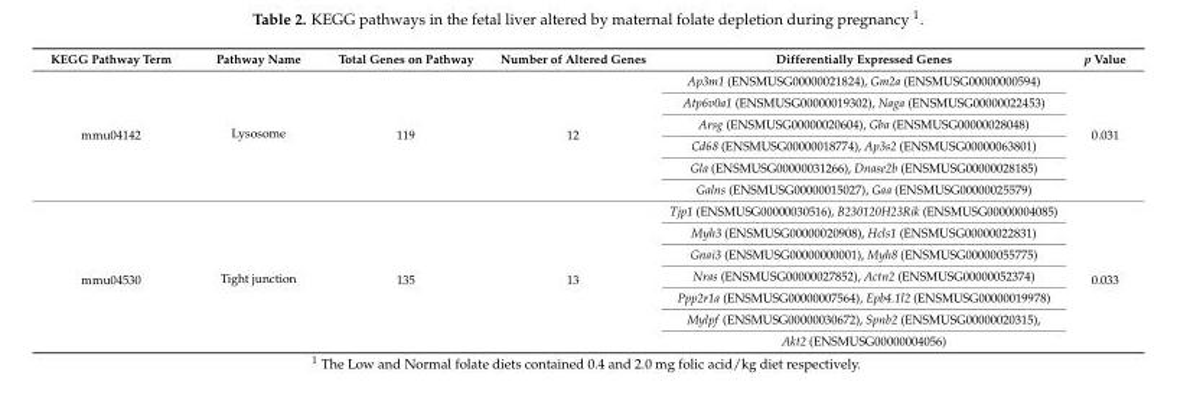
<table><thead><tr><td>KEGG Pathway Term</td><td>Pathway Name</td><td>Total Genes on Pathway</td><td>Number of Altered Genes</td><td>Differentially Expressed Genes</td><td>p Value</td></tr></thead><tbody><tr><td rowspan="6">mmu04142</td><td rowspan="6">Lysosome</td><td rowspan="6">119</td><td rowspan="6">12</td><td>Ap3m1 (ENSMUSG00000021824), Gm2a (ENSMUSG00000000594)</td><td rowspan="6">0.031</td></tr><tr><td>Atp6v0a1 (ENSMUSG00000019302), Naga (ENSMUSG00000022453)</td></tr><tr><td>Arsg (ENSMUSG00000020604), Gba (ENSMUSG00000028048)</td></tr><tr><td>Cd68 (ENSMUSG00000018774), Ap3s2 (ENSMUSG00000063801)</td></tr><tr><td>Gla (ENSMUSG00000031266), Dnase2b (ENSMUSG00000028185)</td></tr><tr><td>Galns (ENSMUSG00000015027), Gaa (ENSMUSG00000025579)</td></tr><tr><td rowspan="7">mmu04530</td><td rowspan="7">Tight junction</td><td rowspan="7">135</td><td rowspan="7">13</td><td>Tjp1 (ENSMUSG00000030516), B230120H23Rik (ENSMUSG00000004085)</td><td rowspan="7">0.033</td></tr><tr><td>Myh3 (ENSMUSG00000020908), Hcls1 (ENSMUSG00000022831)</td></tr><tr><td>Gnai3 (ENSMUSG00000000001), Myh8 (ENSMUSG00000055775)</td></tr><tr><td>Nras (ENSMUSG00000027852), Actn2 (ENSMUSG00000052374)</td></tr><tr><td>Ppp2r1a (ENSMUSG00000007564), Epb4.1l2 (ENSMUSG00000019978)</td></tr><tr><td>Mylpf (ENSMUSG00000030672), Spnb2 (ENSMUSG00000020315),</td></tr><tr><td>Akt2 (ENSMUSG00000004056)</td></tr></tbody></table>